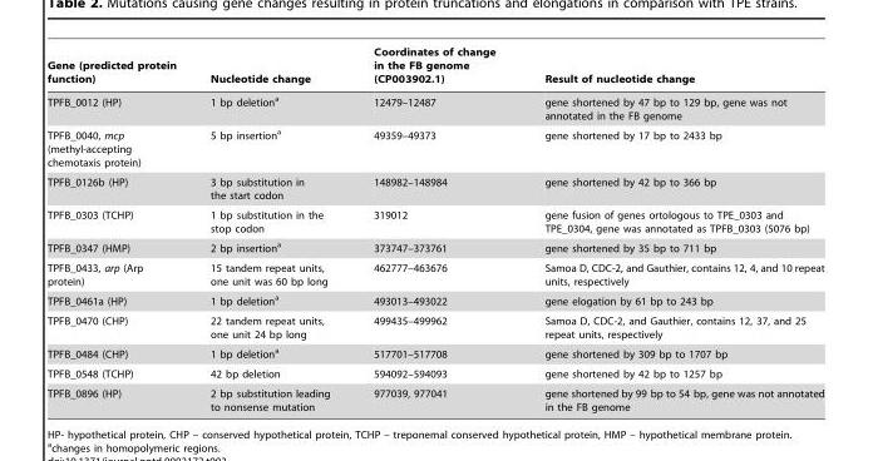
<table><thead><tr><td>Gene (predicted protein function)</td><td>Nucleotide change</td><td>Coordinates of change in the FB genome (CP003902.1)</td><td>Result of nucleotide change</td></tr></thead><tbody><tr><td>TPFB_0012 (HP)</td><td>1 bp deletion<sup>a</sup></td><td>12479–12487</td><td>gene shortened by 47 bp to 129 bp, gene was not annotated in the FB genome</td></tr><tr><td>TPFB_0040, mcp (methyl-accepting chemotaxis protein)</td><td>5 bp insertion<sup>a</sup></td><td>49359–49373</td><td>gene shortened by 17 bp to 2433 bp</td></tr><tr><td>TPFB_0126b (HP)</td><td>3 bp substitution in the start codon</td><td>148982–148984</td><td>gene shortened by 42 bp to 366 bp</td></tr><tr><td>TPFB_0303 (TCHP)</td><td>1 bp substitution in the stop codon</td><td>319012</td><td>gene fusion of genes ortologous to TPE_0303 and TPE_0304, gene was annotated as TPFB_0303 (5076 bp)</td></tr><tr><td>TPFB_0347 (HMP)</td><td>2 bp insertion<sup>a</sup></td><td>373747–373761</td><td>gene shortened by 35 bp to 711 bp</td></tr><tr><td>TPFB_0433, arp (Arp protein)</td><td>15 tandem repeat units, one unit was 60 bp long</td><td>462777–463676</td><td>Samoa D, CDC-2, and Gauthier, contains 12, 4, and 10 repeat units, respectively</td></tr><tr><td>TPFB_0461a (HP)</td><td>1 bp deletion<sup>a</sup></td><td>493013–493022</td><td>gene elogation by 61 bp to 243 bp</td></tr><tr><td>TPFB_0470 (CHP)</td><td>22 tandem repeat units, one unit 24 bp long</td><td>499435–499962</td><td>Samoa D, CDC-2, and Gauthier, contains 12, 37, and 25 repeat units, respectively</td></tr><tr><td>TPFB_0484 (CHP)</td><td>1 bp deletion<sup>a</sup></td><td>517701–517708</td><td>gene shortened by 309 bp to 1707 bp</td></tr><tr><td>TPFB_0548 (TCHP)</td><td>42 bp deletion</td><td>594092–594093</td><td>gene shortened by 42 bp to 1257 bp</td></tr><tr><td>TPFB_0896 (HP)</td><td>2 bp substitution leading to nonsense mutation</td><td>977039, 977041</td><td>gene shortened by 99 bp to 54 bp, gene was not annotated in the FB genome</td></tr></tbody></table>